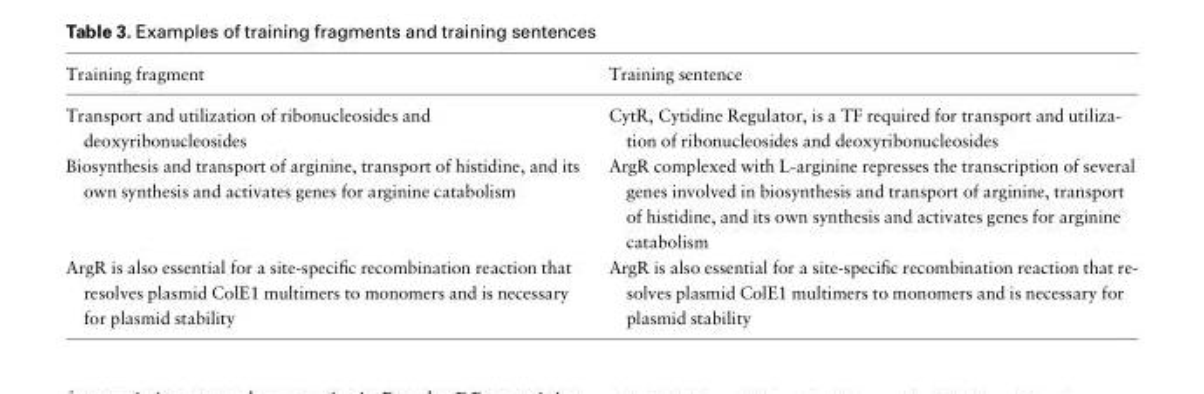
<table><thead><tr><td>Training fragment</td><td>Training sentence</td></tr></thead><tbody><tr><td>Transport and utilization of ribonucleosides and deoxyribonucleosides</td><td>CytR, Cytidine Regulator, is a TF required for transport and utiliza- tion of ribonucleosides and deoxyribonucleosides</td></tr><tr><td>Biosynthesis and transport of arginine, transport of histidine, and its own synthesis and activates genes for arginine catabolism</td><td>ArgR complexed with L-arginine represses the transcription of several genes involved in biosynthesis and transport of arginine, transport of histidine, and its own synthesis and activates genes for arginine catabolism</td></tr><tr><td>ArgR is also essential for a site-specific recombination reaction that resolves plasmid ColE1 multimers to monomers and is necessary for plasmid stability</td><td>ArgR is also essential for a site-specific recombination reaction that re- solves plasmid ColE1 multimers to monomers and is necessary for plasmid stability</td></tr></tbody></table>